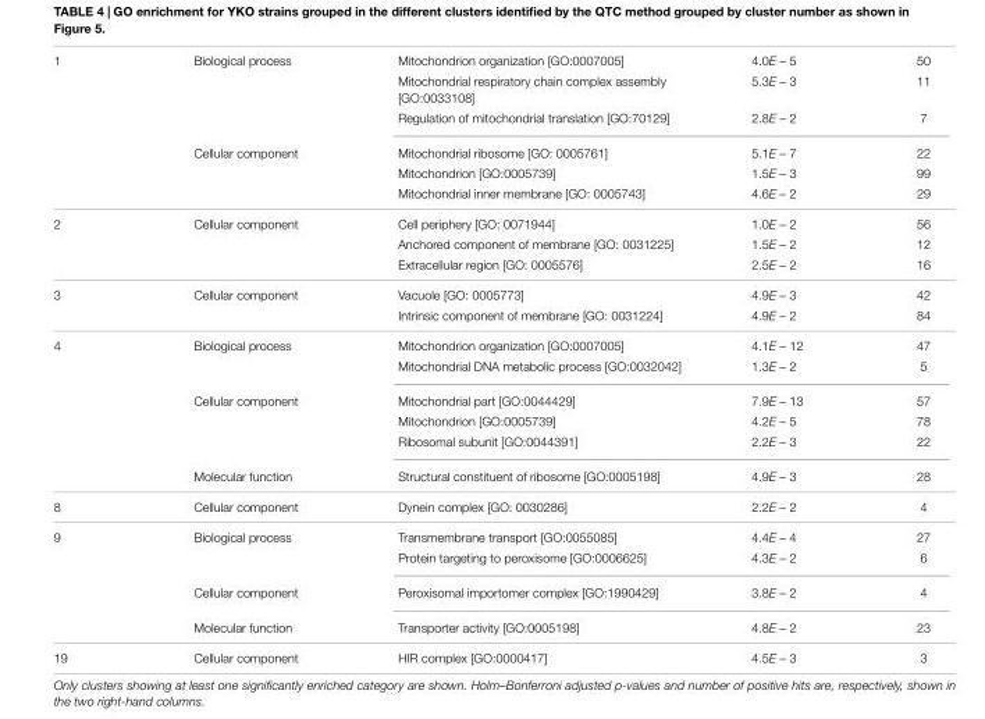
<table><tbody><tr><td rowspan="6">1</td><td>Biological process</td><td>Mitochondrion organization [GO:0007005]</td><td>4.0E – 5</td><td>50</td></tr><tr><td></td><td>Mitochondrial respiratory chain complex assembly [GO:0033108]</td><td>5.3E – 3</td><td>11</td></tr><tr><td></td><td>Regulation of mitochondrial translation [GO:70129]</td><td>2.8E – 2</td><td>7</td></tr><tr><td>Cellular component</td><td>Mitochondrial ribosome [GO: 0005761]</td><td>5.1E – 7</td><td>22</td></tr><tr><td></td><td>Mitochondrion [GO:0005739]</td><td>1.5E – 3</td><td>99</td></tr><tr><td></td><td>Mitochondrial inner membrane [GO: 0005743]</td><td>4.6E – 2</td><td>29</td></tr><tr><td rowspan="3">2</td><td>Cellular component</td><td>Cell periphery [GO: 0071944]</td><td>1.0E – 2</td><td>56</td></tr><tr><td></td><td>Anchored component of membrane [GO: 0031225]</td><td>1.5E – 2</td><td>12</td></tr><tr><td></td><td>Extracellular region [GO: 0005576]</td><td>2.5E – 2</td><td>16</td></tr><tr><td rowspan="2">3</td><td>Cellular component</td><td>Vacuole [GO: 0005773]</td><td>4.9E – 3</td><td>42</td></tr><tr><td></td><td>Intrinsic component of membrane [GO: 0031224]</td><td>4.9E – 2</td><td>84</td></tr><tr><td rowspan="6">4</td><td>Biological process</td><td>Mitochondrion organization [GO:0007005]</td><td>4.1E – 12</td><td>47</td></tr><tr><td></td><td>Mitochondrial DNA metabolic process [GO:0032042]</td><td>1.3E – 2</td><td>5</td></tr><tr><td>Cellular component</td><td>Mitochondrial part [GO:0044429]</td><td>7.9E – 13</td><td>57</td></tr><tr><td></td><td>Mitochondrion [GO:0005739]</td><td>4.2E – 5</td><td>78</td></tr><tr><td></td><td>Ribosomal subunit [GO:0044391]</td><td>2.2E – 3</td><td>22</td></tr><tr><td>Molecular function</td><td>Structural constituent of ribosome [GO:0005198]</td><td>4.9E – 3</td><td>28</td></tr><tr><td>8</td><td>Cellular component</td><td>Dynein complex [GO: 0030286]</td><td>2.2E – 2</td><td>4</td></tr><tr><td rowspan="4">9</td><td>Biological process</td><td>Transmembrane transport [GO:0055085]</td><td>4.4E – 4</td><td>27</td></tr><tr><td></td><td>Protein targeting to peroxisome [GO:0006625]</td><td>4.3E – 2</td><td>6</td></tr><tr><td>Cellular component</td><td>Peroxisomal importomer complex [GO:1990429]</td><td>3.8E – 2</td><td>4</td></tr><tr><td>Molecular function</td><td>Transporter activity [GO:0005198]</td><td>4.8E – 2</td><td>23</td></tr><tr><td>19</td><td>Cellular component</td><td>HIR complex [GO:0000417]</td><td>4.5E – 3</td><td>3</td></tr></tbody></table>